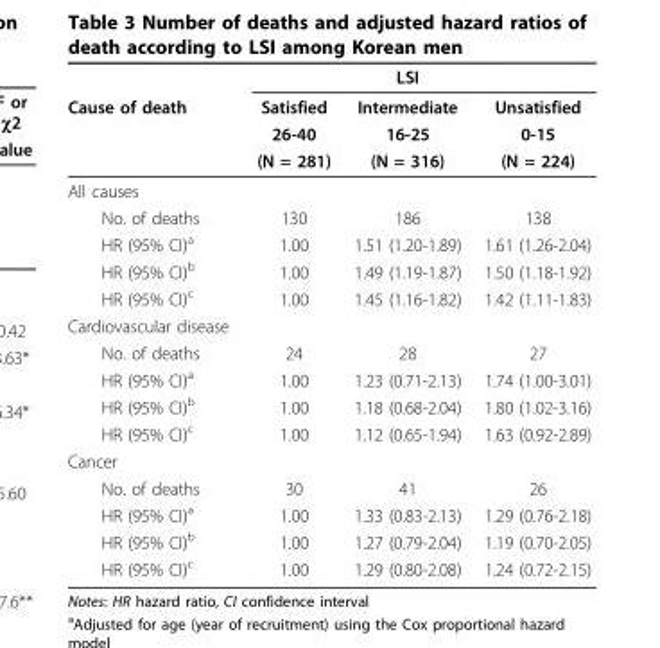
<table><thead><tr><td rowspan="4">Cause of death</td><td rowspan="4">Satisfied 26-40 (N = 281)</td><td rowspan="4">LSI Intermediate 16-25 (N = 316)</td><td rowspan="4">Unsatisfied 0-15 (N = 224)</td></tr><tr></tr><tr></tr><tr></tr></thead><tbody><tr><td colspan="4">All causes</td></tr><tr><td>No. of deaths</td><td>130</td><td>186</td><td>138</td></tr><tr><td>HR (95% CI)<sup>a</sup></td><td>1.00</td><td>1.51 (1.20-1.89)</td><td>1.61 (1.26-2.04)</td></tr><tr><td>HR (95% CI)<sup>b</sup></td><td>1.00</td><td>1.49 (1.19-1.87)</td><td>1.50 (1.18-1.92)</td></tr><tr><td>HR (95% CI)<sup>c</sup></td><td>1.00</td><td>1.45 (1.16-1.82)</td><td>1.42 (1.11-1.83)</td></tr><tr><td colspan="4">Cardiovascular disease</td></tr><tr><td>No. of deaths</td><td>24</td><td>28</td><td>27</td></tr><tr><td>HR (95% CI)<sup>a</sup></td><td>1.00</td><td>1.23 (0.71-2.13)</td><td>1.74 (1.00-3.01)</td></tr><tr><td>HR (95% CI)<sup>b</sup></td><td>1.00</td><td>1.18 (0.68-2.04)</td><td>1.80 (1.02-3.16)</td></tr><tr><td>HR (95% CI)<sup>c</sup></td><td>1.00</td><td>1.12 (0.65-1.94)</td><td>1.63 (0.92-2.89)</td></tr><tr><td colspan="4">Cancer</td></tr><tr><td>No. of deaths</td><td>30</td><td>41</td><td>26</td></tr><tr><td>HR (95% CI)<sup>a</sup></td><td>1.00</td><td>1.33 (0.83-2.13)</td><td>1.29 (0.76-2.18)</td></tr><tr><td>HR (95% CI)<sup>b</sup></td><td>1.00</td><td>1.27 (0.79-2.04)</td><td>1.19 (0.70-2.05)</td></tr><tr><td>HR (95% CI)<sup>c</sup></td><td>1.00</td><td>1.29 (0.80-2.08)</td><td>1.24 (0.72-2.15)</td></tr></tbody></table>